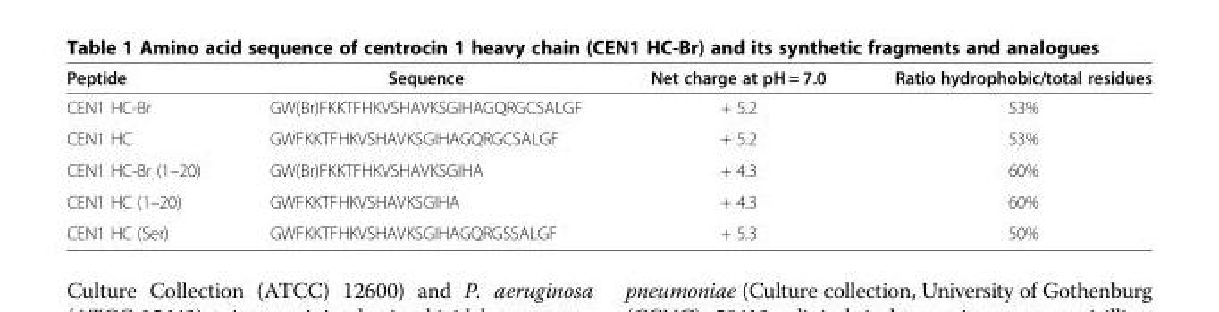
<table><thead><tr><td>Peptide</td><td>Sequence</td><td>Net charge at pH = 7.0</td><td>Ratio hydrophobic/total residues</td></tr></thead><tbody><tr><td>CEN1 HC-Br</td><td>GW(Br)FKKTFHKVSHAVKSGIHAGQRGCSALGF</td><td>+ 5.2</td><td>53%</td></tr><tr><td>CEN1 HC</td><td>GWFKKTFHKVSHAVKSGIHAGQRGCSALGF</td><td>+ 5.2</td><td>53%</td></tr><tr><td>CEN1 HC-Br (1–20)</td><td>GW(Br)FKKTFHKVSHAVKSGIHA</td><td>+ 4.3</td><td>60%</td></tr><tr><td>CEN1 HC (1–20)</td><td>GWFKKTFHKVSHAVKSGIHA</td><td>+ 4.3</td><td>60%</td></tr><tr><td>CEN1 HC (Ser)</td><td>GWFKKTFHKVSHAVKSGIHAGQRGSSALGF</td><td>+ 5.3</td><td>50%</td></tr></tbody></table>